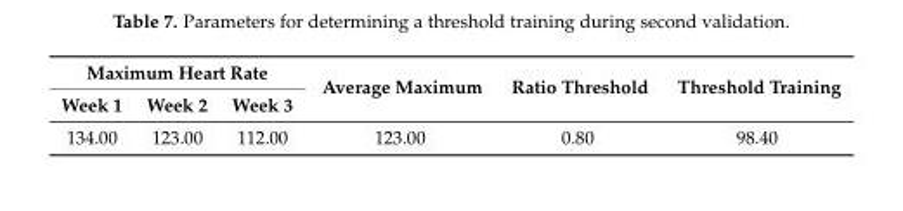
<table><thead><tr><td colspan="3">Maximum Heart Rate</td><td rowspan="2">Average Maximum</td><td rowspan="2">Ratio Threshold</td><td rowspan="2">Threshold Training</td></tr><tr><td>Week 1</td><td>Week 2</td><td>Week 3</td></tr></thead><tbody><tr><td>134.00</td><td>123.00</td><td>112.00</td><td>123.00</td><td>0.80</td><td>98.40</td></tr></tbody></table>